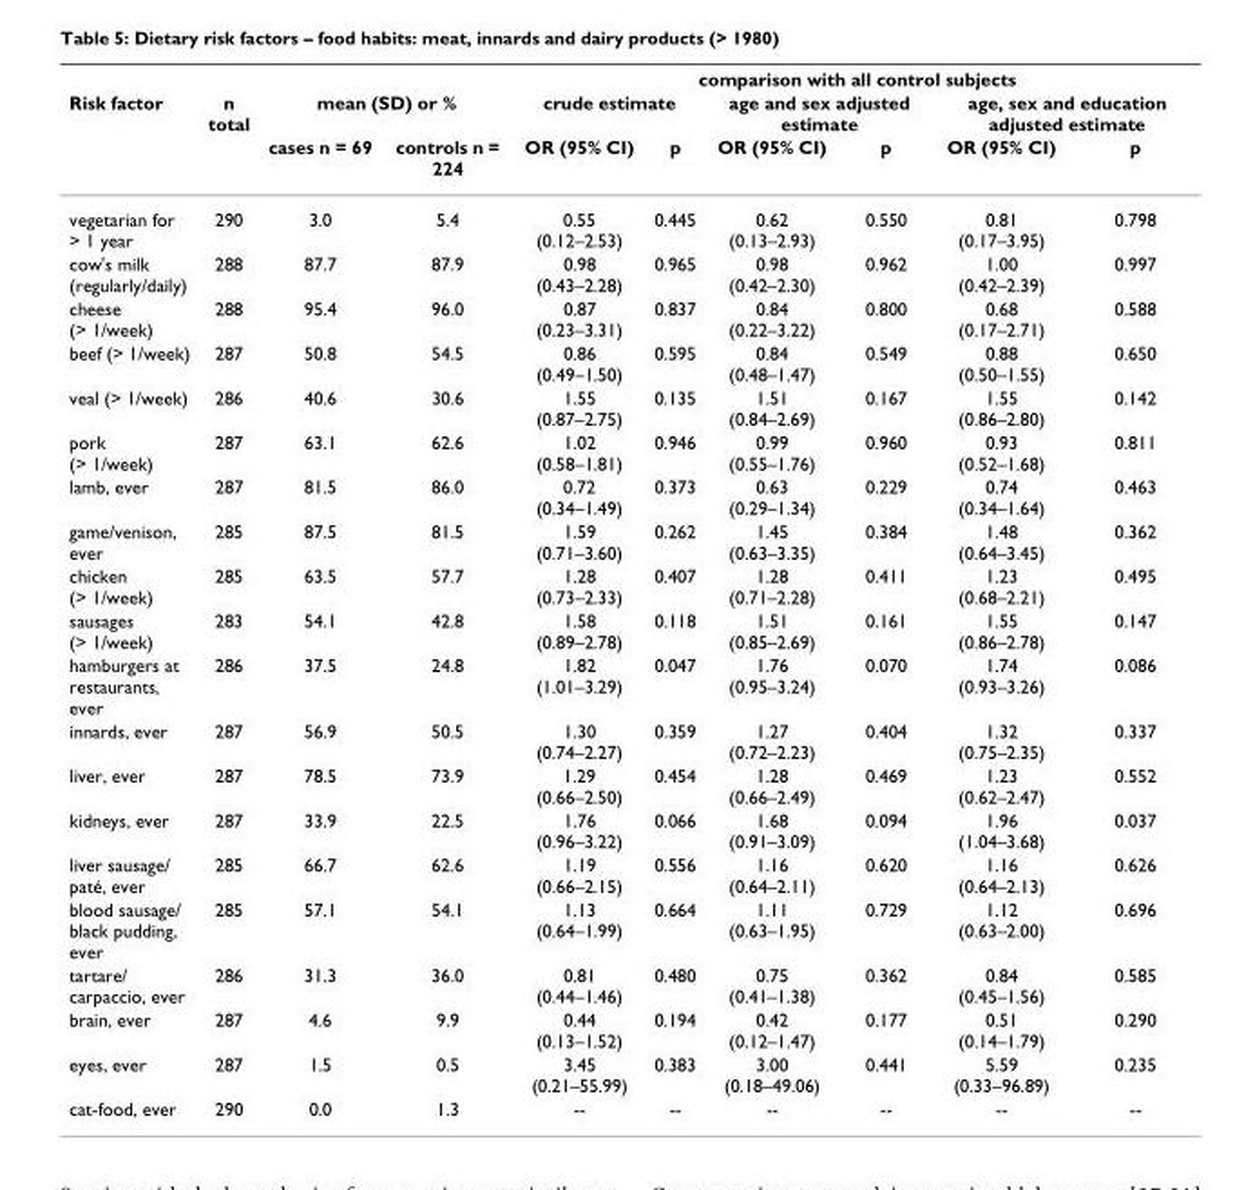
<table><thead><tr><td rowspan="3">Risk factor</td><td rowspan="3">n total</td><td></td><td></td><td colspan="6">comparison with all control subjects</td></tr><tr><td colspan="2">mean (SD) or %</td><td colspan="2">crude estimate</td><td colspan="2">age and sex adjusted estimate</td><td colspan="2">age, sex and education adjusted estimate</td></tr><tr><td>cases n = 69</td><td>controls n = 224</td><td>OR (95% CI)</td><td>p</td><td>OR (95% CI)</td><td>p</td><td>OR (95% CI)</td><td>p</td></tr></thead><tbody><tr><td>vegetarian for &gt; 1 year</td><td>290</td><td>3.0</td><td>5.4</td><td>0.55 (0.12–2.53)</td><td>0.445</td><td>0.62 (0.13–2.93)</td><td>0.550</td><td>0.81 (0.17–3.95)</td><td>0.798</td></tr><tr><td>cow&#x27;s milk (regularly/daily)</td><td>288</td><td>87.7</td><td>87.9</td><td>0.98 (0.43–2.28)</td><td>0.965</td><td>0.98 (0.42–2.30)</td><td>0.962</td><td>1.00 (0.42–2.39)</td><td>0.997</td></tr><tr><td>cheese (&gt; 1/week)</td><td>288</td><td>95.4</td><td>96.0</td><td>0.87 (0.23–3.31)</td><td>0.837</td><td>0.84 (0.22–3.22)</td><td>0.800</td><td>0.68 (0.17–2.71)</td><td>0.588</td></tr><tr><td>beef (&gt; 1/week)</td><td>287</td><td>50.8</td><td>54.5</td><td>0.86 (0.49–1.50)</td><td>0.595</td><td>0.84 (0.48–1.47)</td><td>0.549</td><td>0.88 (0.50–1.55)</td><td>0.650</td></tr><tr><td>veal (&gt; 1/week)</td><td>286</td><td>40.6</td><td>30.6</td><td>1.55 (0.87–2.75)</td><td>0.135</td><td>1.51 (0.84–2.69)</td><td>0.167</td><td>1.55 (0.86–2.80)</td><td>0.142</td></tr><tr><td>pork (&gt; 1/week)</td><td>287</td><td>63.1</td><td>62.6</td><td>1.02 (0.58–1.81)</td><td>0.946</td><td>0.99 (0.55–1.76)</td><td>0.960</td><td>0.93 (0.52–1.68)</td><td>0.811</td></tr><tr><td>lamb, ever</td><td>287</td><td>81.5</td><td>86.0</td><td>0.72 (0.34–1.49)</td><td>0.373</td><td>0.63 (0.29–1.34)</td><td>0.229</td><td>0.74 (0.34–1.64)</td><td>0.463</td></tr><tr><td>game/venison, ever</td><td>285</td><td>87.5</td><td>81.5</td><td>1.59 (0.71–3.60)</td><td>0.262</td><td>1.45 (0.63–3.35)</td><td>0.384</td><td>1.48 (0.64–3.45)</td><td>0.362</td></tr><tr><td>chicken (&gt; 1/week)</td><td>285</td><td>63.5</td><td>57.7</td><td>1.28 (0.73–2.33)</td><td>0.407</td><td>1.28 (0.71–2.28)</td><td>0.411</td><td>1.23 (0.68–2.21)</td><td>0.495</td></tr><tr><td>sausages (&gt; 1/week)</td><td>283</td><td>54.1</td><td>42.8</td><td>1.58 (0.89–2.78)</td><td>0.118</td><td>1.51 (0.85–2.69)</td><td>0.161</td><td>1.55 (0.86–2.78)</td><td>0.147</td></tr><tr><td>hamburgers at restaurants, ever</td><td>286</td><td>37.5</td><td>24.8</td><td>1.82 (1.01–3.29)</td><td>0.047</td><td>1.76 (0.95–3.24)</td><td>0.070</td><td>1.74 (0.93–3.26)</td><td>0.086</td></tr><tr><td>innards, ever</td><td>287</td><td>56.9</td><td>50.5</td><td>1.30 (0.74–2.27)</td><td>0.359</td><td>1.27 (0.72–2.23)</td><td>0.404</td><td>1.32 (0.75–2.35)</td><td>0.337</td></tr><tr><td>liver, ever</td><td>287</td><td>78.5</td><td>73.9</td><td>1.29 (0.66–2.50)</td><td>0.454</td><td>1.28 (0.66–2.49)</td><td>0.469</td><td>1.23 (0.62–2.47)</td><td>0.552</td></tr><tr><td>kidneys, ever</td><td>287</td><td>33.9</td><td>22.5</td><td>1.76 (0.96–3.22)</td><td>0.066</td><td>1.68 (0.91–3.09)</td><td>0.094</td><td>1.96 (1.04–3.68)</td><td>0.037</td></tr><tr><td>liver sausage/ paté, ever</td><td>285</td><td>66.7</td><td>62.6</td><td>1.19 (0.66–2.15)</td><td>0.556</td><td>1.16 (0.64–2.11)</td><td>0.620</td><td>1.16 (0.64–2.13)</td><td>0.626</td></tr><tr><td>blood sausage/ black pudding, ever</td><td>285</td><td>57.1</td><td>54.1</td><td>1.13 (0.64–1.99)</td><td>0.664</td><td>1.11 (0.63–1.95)</td><td>0.729</td><td>1.12 (0.63–2.00)</td><td>0.696</td></tr><tr><td>tartare/ carpaccio, ever</td><td>286</td><td>31.3</td><td>36.0</td><td>0.81 (0.44–1.46)</td><td>0.480</td><td>0.75 (0.41–1.38)</td><td>0.362</td><td>0.84 (0.45–1.56)</td><td>0.585</td></tr><tr><td>brain, ever</td><td>287</td><td>4.6</td><td>9.9</td><td>0.44 (0.13–1.52)</td><td>0.194</td><td>0.42 (0.12–1.47)</td><td>0.177</td><td>0.51 (0.14–1.79)</td><td>0.290</td></tr><tr><td>eyes, ever</td><td>287</td><td>1.5</td><td>0.5</td><td>3.45 (0.21–55.99)</td><td>0.383</td><td>3.00 (0.18–49.06)</td><td>0.441</td><td>5.59 (0.33–96.89)</td><td>0.235</td></tr><tr><td>cat-food, ever</td><td>290</td><td>0.0</td><td>1.3</td><td>--</td><td>--</td><td>--</td><td>--</td><td>--</td><td>--</td></tr></tbody></table>